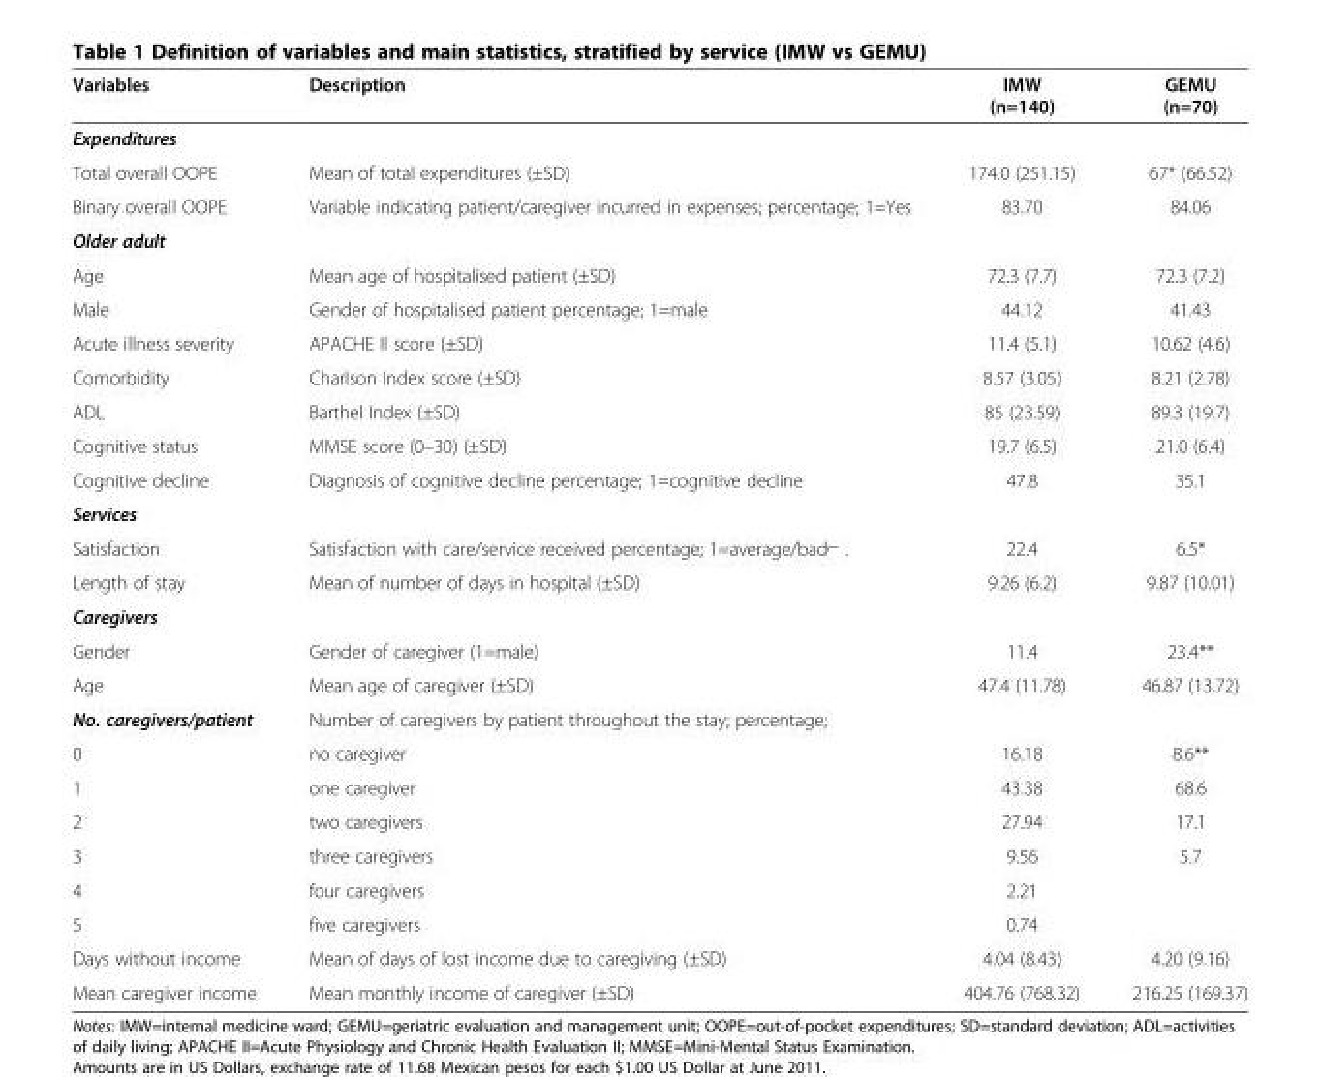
<table><thead><tr><td>Variables</td><td>Description</td><td>IMW (n=140)</td><td>GEMU (n=70)</td></tr></thead><tbody><tr><td colspan="4">Expenditures</td></tr><tr><td>Total overall OOPE</td><td>Mean of total expenditures (±SD)</td><td>174.0 (251.15)</td><td>67* (66.52)</td></tr><tr><td>Binary overall OOPE</td><td>Variable indicating patient/caregiver incurred in expenses; percentage; 1=Yes</td><td>83.70</td><td>84.06</td></tr><tr><td colspan="4">Older adult</td></tr><tr><td>Age</td><td>Mean age of hospitalised patient (±SD)</td><td>72.3 (7.7)</td><td>72.3 (7.2)</td></tr><tr><td>Male</td><td>Gender of hospitalised patient percentage; 1=male</td><td>44.12</td><td>41.43</td></tr><tr><td>Acute illness severity</td><td>APACHE II score (±SD)</td><td>11.4 (5.1)</td><td>10.62 (4.6)</td></tr><tr><td>Comorbidity</td><td>Charlson Index score (±SD)</td><td>8.57 (3.05)</td><td>8.21 (2.78)</td></tr><tr><td>ADL</td><td>Barthel Index (±SD)</td><td>85 (23.59)</td><td>89.3 (19.7)</td></tr><tr><td>Cognitive status</td><td>MMSE score (0–30) (±SD)</td><td>19.7 (6.5)</td><td>21.0 (6.4)</td></tr><tr><td>Cognitive decline</td><td>Diagnosis of cognitive decline percentage; 1=cognitive decline</td><td>47.8</td><td>35.1</td></tr><tr><td colspan="4">Services</td></tr><tr><td>Satisfaction</td><td>Satisfaction with care/service received percentage; 1=average/bad⌐ .</td><td>22.4</td><td>6.5*</td></tr><tr><td>Length of stay</td><td>Mean of number of days in hospital (±SD)</td><td>9.26 (6.2)</td><td>9.87 (10.01)</td></tr><tr><td colspan="4">Caregivers</td></tr><tr><td>Gender</td><td>Gender of caregiver (1=male)</td><td>11.4</td><td>23.4**</td></tr><tr><td>Age</td><td>Mean age of caregiver (±SD)</td><td>47.4 (11.78)</td><td>46.87 (13.72)</td></tr><tr><td>No. caregivers/patient</td><td>Number of caregivers by patient throughout the stay; percentage;</td><td></td><td></td></tr><tr><td>0</td><td>no caregiver</td><td>16.18</td><td>8.6**</td></tr><tr><td>1</td><td>one caregiver</td><td>43.38</td><td>68.6</td></tr><tr><td>2</td><td>two caregivers</td><td>27.94</td><td>17.1</td></tr><tr><td>3</td><td>three caregivers</td><td>9.56</td><td>5.7</td></tr><tr><td>4</td><td>four caregivers</td><td>2.21</td><td></td></tr><tr><td>5</td><td>five caregivers</td><td>0.74</td><td></td></tr><tr><td>Days without income</td><td>Mean of days of lost income due to caregiving (±SD)</td><td>4.04 (8.43)</td><td>4.20 (9.16)</td></tr><tr><td>Mean caregiver income</td><td>Mean monthly income of caregiver (±SD)</td><td>404.76 (768.32)</td><td>216.25 (169.37)</td></tr></tbody></table>